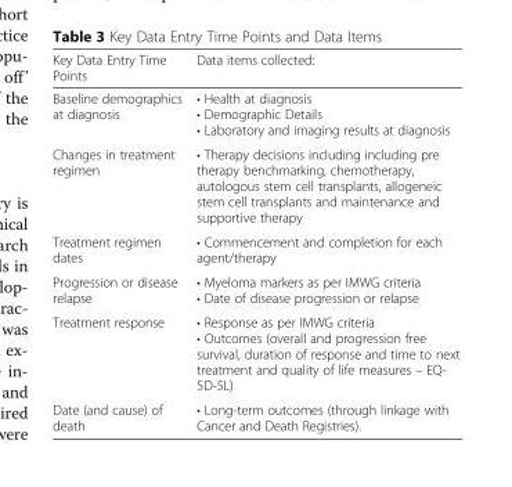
<table><thead><tr><td>Key Data Entry Time Points</td><td>Data items collected:</td></tr></thead><tbody><tr><td>Baseline demographics at diagnosis</td><td>• Health at diagnosis • Demographic Details • Laboratory and imaging results at diagnosis</td></tr><tr><td>Changes in treatment regimen</td><td>• Therapy decisions including including pre therapy benchmarking, chemotherapy, autologous stem cell transplants, allogeneic stem cell transplants and maintenance and supportive therapy</td></tr><tr><td>Treatment regimen dates</td><td>• Commencement and completion for each agent/therapy</td></tr><tr><td>Progression or disease relapse</td><td>• Myeloma markers as per IMWG criteria • Date of disease progression or relapse</td></tr><tr><td>Treatment response</td><td>• Response as per IMWG criteria • Outcomes (overall and progression free survival, duration of response and time to next treatment and quality of life measures – EQ- 5D-5L)</td></tr><tr><td>Date (and cause) of death</td><td>• Long-term outcomes (through linkage with Cancer and Death Registries).</td></tr></tbody></table>